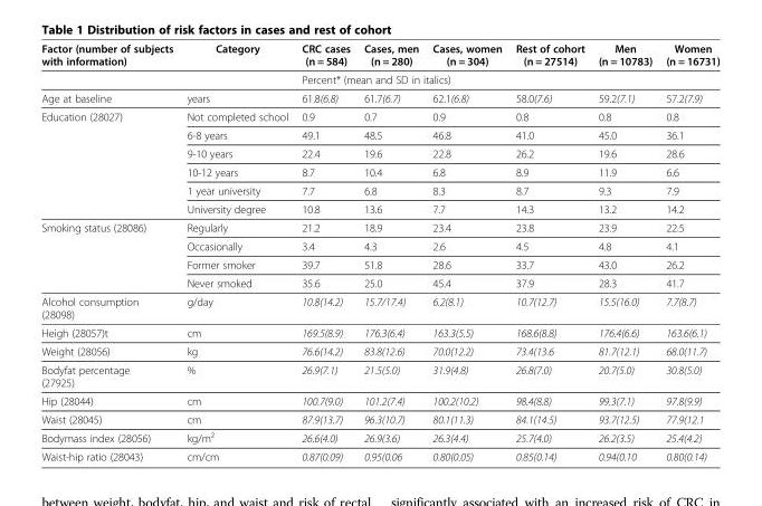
<table><thead><tr><td>Factor (number of subjects with information)</td><td>Category</td><td>CRC cases (n = 584)</td><td>Cases, men (n = 280)</td><td>Cases, women (n = 304)</td><td>Rest of cohort (n = 27514)</td><td>Men (n = 10783)</td><td>Women (n = 16731)</td></tr></thead><tbody><tr><td></td><td></td><td colspan="6">Percent* (mean and SD in italics)</td></tr><tr><td>Age at baseline</td><td>years</td><td>61.8(6.8)</td><td>61.7(6.7)</td><td>62.1(6.8)</td><td>58.0(7.6)</td><td>59.2(7.1)</td><td>57.2(7.9)</td></tr><tr><td rowspan="6">Education (28027)</td><td>Not completed school</td><td>0.9</td><td>0.7</td><td>0.9</td><td>0.8</td><td>0.8</td><td>0.8</td></tr><tr><td>6-8 years</td><td>49.1</td><td>48.5</td><td>46.8</td><td>41.0</td><td>45.0</td><td>36.1</td></tr><tr><td>9-10 years</td><td>22.4</td><td>19.6</td><td>22.8</td><td>26.2</td><td>19.6</td><td>28.6</td></tr><tr><td>10-12 years</td><td>8.7</td><td>10.4</td><td>6.8</td><td>8.9</td><td>11.9</td><td>6.6</td></tr><tr><td>1 year university</td><td>7.7</td><td>6.8</td><td>8.3</td><td>8.7</td><td>9.3</td><td>7.9</td></tr><tr><td>University degree</td><td>10.8</td><td>13.6</td><td>7.7</td><td>14.3</td><td>13.2</td><td>14.2</td></tr><tr><td rowspan="4">Smoking status (28086)</td><td>Regularly</td><td>21.2</td><td>18.9</td><td>23.4</td><td>23.8</td><td>23.9</td><td>22.5</td></tr><tr><td>Occasionally</td><td>3.4</td><td>4.3</td><td>2.6</td><td>4.5</td><td>4.8</td><td>4.1</td></tr><tr><td>Former smoker</td><td>39.7</td><td>51.8</td><td>28.6</td><td>33.7</td><td>43.0</td><td>26.2</td></tr><tr><td>Never smoked</td><td>35.6</td><td>25.0</td><td>45.4</td><td>37.9</td><td>28.3</td><td>41.7</td></tr><tr><td>Alcohol consumption (28098)</td><td>g/day</td><td>10.8(14.2)</td><td>15.7/17.4)</td><td>6.2(8.1)</td><td>10.7(12.7)</td><td>15.5(16.0)</td><td>7.7(8.7)</td></tr><tr><td>Heigh (28057)t</td><td>cm</td><td>169.5(8.9)</td><td>176.3(6.4)</td><td>163.3(5.5)</td><td>168.6(8.8)</td><td>176.4(6.6)</td><td>163.6(6.1)</td></tr><tr><td>Weight (28056)</td><td>kg</td><td>76.6(14.2)</td><td>83.8(12.6)</td><td>70.0(12.2)</td><td>73.4(13.6</td><td>81.7(12.1)</td><td>68.0(11.7)</td></tr><tr><td>Bodyfat percentage (27925)</td><td>%</td><td>26.9(7.1)</td><td>21.5(5.0)</td><td>31.9(4.8)</td><td>26.8(7.0)</td><td>20.7(5.0)</td><td>30.8(5.0)</td></tr><tr><td>Hip (28044)</td><td>cm</td><td>100.7(9.0)</td><td>101.2(7.4)</td><td>100.2(10.2)</td><td>98.4(8.8)</td><td>99.3(7.1)</td><td>97.8(9.9)</td></tr><tr><td>Waist (28045)</td><td>cm</td><td>87.9(13.7)</td><td>96.3(10.7)</td><td>80.1(11.3)</td><td>84.1(14.5)</td><td>93.7(12.5)</td><td>77.9(12.1</td></tr><tr><td>Bodymass index (28056)</td><td>kg/m²</td><td>26.6(4.0)</td><td>26.9(3.6)</td><td>26.3(4.4)</td><td>25.7(4.0)</td><td>26.2(3.5)</td><td>25.4(4.2)</td></tr><tr><td>Waist-hip ratio (28043)</td><td>cm/cm</td><td>0.87(0.09)</td><td>0.95(0.06</td><td>0.80(0.05)</td><td>0.85(0.14)</td><td>0.94(0.10</td><td>0.80(0.14)</td></tr></tbody></table>